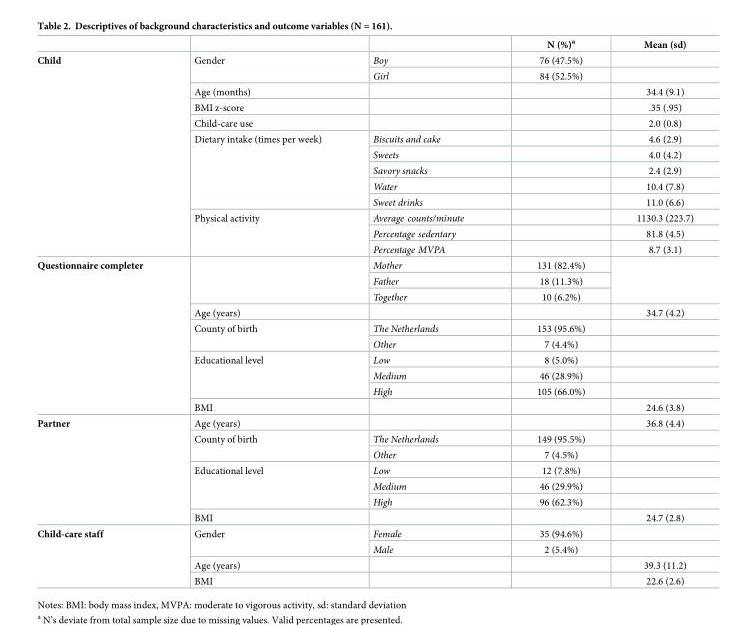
<table><thead><tr><td></td><td></td><td></td><td>N (%)<sup>a</sup></td><td>Mean (sd)</td></tr></thead><tbody><tr><td rowspan="13">Child</td><td rowspan="2">Gender</td><td>Boy</td><td>76 (47.5%)</td><td></td></tr><tr><td>Girl</td><td>84 (52.5%)</td><td></td></tr><tr><td>Age (months)</td><td></td><td></td><td>34.4 (9.1)</td></tr><tr><td>BMI z-score</td><td></td><td></td><td>.35 (.95)</td></tr><tr><td>Child-care use</td><td></td><td></td><td>2.0 (0.8)</td></tr><tr><td rowspan="5">Dietary intake (times per week)</td><td>Biscuits and cake</td><td></td><td>4.6 (2.9)</td></tr><tr><td>Sweets</td><td></td><td>4.0 (4.2)</td></tr><tr><td>Savory snacks</td><td></td><td>2.4 (2.9)</td></tr><tr><td>Water</td><td></td><td>10.4 (7.8)</td></tr><tr><td>Sweet drinks</td><td></td><td>11.0 (6.6)</td></tr><tr><td rowspan="3">Physical activity</td><td>Average counts/minute</td><td></td><td>1130.3 (223.7)</td></tr><tr><td>Percentage sedentary</td><td></td><td>81.8 (4.5)</td></tr><tr><td>Percentage MVPA</td><td></td><td>8.7 (3.1)</td></tr><tr><td rowspan="10">Questionnaire completer</td><td rowspan="3"></td><td>Mother</td><td>131 (82.4%)</td><td rowspan="3"></td></tr><tr><td>Father</td><td>18 (11.3%)</td></tr><tr><td>Together</td><td>10 (6.2%)</td></tr><tr><td>Age (years)</td><td></td><td></td><td>34.7 (4.2)</td></tr><tr><td rowspan="2">County of birth</td><td>The Netherlands</td><td>153 (95.6%)</td><td></td></tr><tr><td>Other</td><td>7 (4.4%)</td><td></td></tr><tr><td rowspan="3">Educational level</td><td>Low</td><td>8 (5.0%)</td><td></td></tr><tr><td>Medium</td><td>46 (28.9%)</td><td></td></tr><tr><td>High</td><td>105 (66.0%)</td><td></td></tr><tr><td>BMI</td><td></td><td></td><td>24.6 (3.8)</td></tr><tr><td rowspan="7">Partner</td><td>Age (years)</td><td></td><td></td><td>36.8 (4.4)</td></tr><tr><td rowspan="2">County of birth</td><td>The Netherlands</td><td>149 (95.5%)</td><td></td></tr><tr><td>Other</td><td>7 (4.5%)</td><td></td></tr><tr><td rowspan="3">Educational level</td><td>Low</td><td>12 (7.8%)</td><td></td></tr><tr><td>Medium</td><td>46 (29.9%)</td><td></td></tr><tr><td>High</td><td>96 (62.3%)</td><td></td></tr><tr><td>BMI</td><td></td><td></td><td>24.7 (2.8)</td></tr><tr><td rowspan="4">Child-care staff</td><td rowspan="2">Gender</td><td>Female</td><td>35 (94.6%)</td><td></td></tr><tr><td>Male</td><td>2 (5.4%)</td><td></td></tr><tr><td>Age (years)</td><td></td><td></td><td>39.3 (11.2)</td></tr><tr><td>BMI</td><td></td><td></td><td>22.6 (2.6)</td></tr></tbody></table>